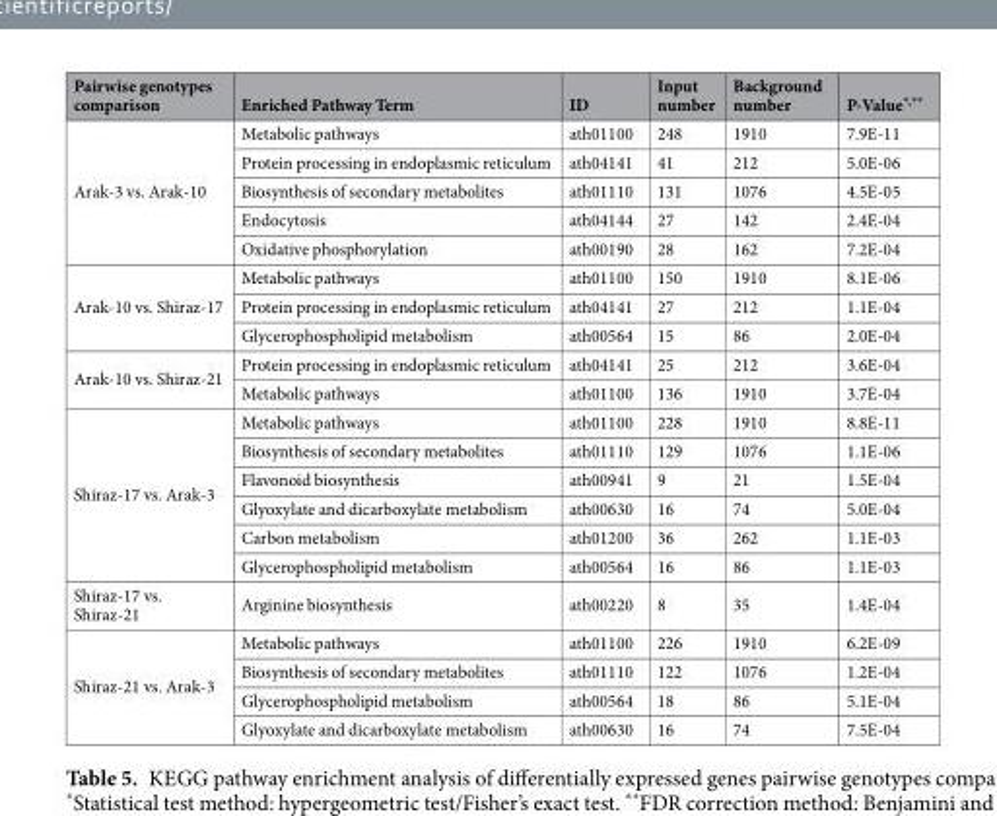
<table><thead><tr><td>Pairwise genotypes comparison</td><td>Enriched Pathway Term</td><td>ID</td><td>Input number</td><td>Background number</td><td>P-Value<sup>*,**</sup></td></tr></thead><tbody><tr><td rowspan="5">Arak-3 vs. Arak-10</td><td>Metabolic pathways</td><td>ath01100</td><td>248</td><td>1910</td><td>7.9E-11</td></tr><tr><td>Protein processing in endoplasmic reticulum</td><td>ath04141</td><td>41</td><td>212</td><td>5.0E-06</td></tr><tr><td>Biosynthesis of secondary metabolites</td><td>ath01110</td><td>131</td><td>1076</td><td>4.5E-05</td></tr><tr><td>Endocytosis</td><td>ath04144</td><td>27</td><td>142</td><td>2.4E-04</td></tr><tr><td>Oxidative phosphorylation</td><td>ath00190</td><td>28</td><td>162</td><td>7.2E-04</td></tr><tr><td rowspan="3">Arak-10 vs. Shiraz-17</td><td>Metabolic pathways</td><td>ath01100</td><td>150</td><td>1910</td><td>8.1E-06</td></tr><tr><td>Protein processing in endoplasmic reticulum</td><td>ath04141</td><td>27</td><td>212</td><td>1.1E-04</td></tr><tr><td>Glycerophospholipid metabolism</td><td>ath00564</td><td>15</td><td>86</td><td>2.0E-04</td></tr><tr><td rowspan="2">Arak-10 vs. Shiraz-21</td><td>Protein processing in endoplasmic reticulum</td><td>ath04141</td><td>25</td><td>212</td><td>3.6E-04</td></tr><tr><td>Metabolic pathways</td><td>ath01100</td><td>136</td><td>1910</td><td>3.7E-04</td></tr><tr><td rowspan="6">Shiraz-17 vs. Arak-3</td><td>Metabolic pathways</td><td>ath01100</td><td>228</td><td>1910</td><td>8.8E-11</td></tr><tr><td>Biosynthesis of secondary metabolites</td><td>ath01110</td><td>129</td><td>1076</td><td>1.1E-06</td></tr><tr><td>Flavonoid biosynthesis</td><td>ath00941</td><td>9</td><td>21</td><td>1.5E-04</td></tr><tr><td>Glyoxylate and dicarboxylate metabolism</td><td>ath00630</td><td>16</td><td>74</td><td>5.0E-04</td></tr><tr><td>Carbon metabolism</td><td>ath01200</td><td>36</td><td>262</td><td>1.1E-03</td></tr><tr><td>Glycerophospholipid metabolism</td><td>ath00564</td><td>16</td><td>86</td><td>1.1E-03</td></tr><tr><td>Shiraz-17 vs. Shiraz-21</td><td>Arginine biosynthesis</td><td>ath00220</td><td>8</td><td>35</td><td>1.4E-04</td></tr><tr><td rowspan="4">Shiraz-21 vs. Arak-3</td><td>Metabolic pathways</td><td>ath01100</td><td>226</td><td>1910</td><td>6.2E-09</td></tr><tr><td>Biosynthesis of secondary metabolites</td><td>ath01110</td><td>122</td><td>1076</td><td>1.2E-04</td></tr><tr><td>Glycerophospholipid metabolism</td><td>ath00564</td><td>18</td><td>86</td><td>5.1E-04</td></tr><tr><td>Glyoxylate and dicarboxylate metabolism</td><td>ath00630</td><td>16</td><td>74</td><td>7.5E-04</td></tr></tbody></table>